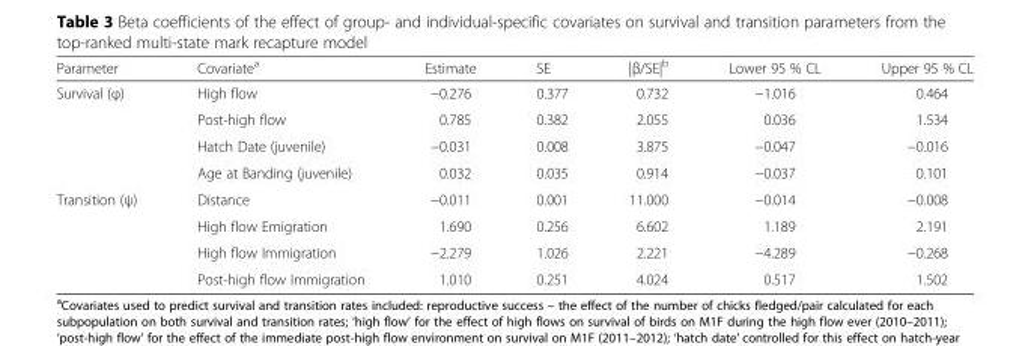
<table><thead><tr><td>Parameter</td><td>Covariate<sup>a</sup></td><td>Estimate</td><td>SE</td><td>|β/SE|<sup>b</sup></td><td>Lower 95 % CL</td><td>Upper 95 % CL</td></tr></thead><tbody><tr><td rowspan="4">Survival (φ)</td><td>High flow</td><td>−0.276</td><td>0.377</td><td>0.732</td><td>−1.016</td><td>0.464</td></tr><tr><td>Post-high flow</td><td>0.785</td><td>0.382</td><td>2.055</td><td>0.036</td><td>1.534</td></tr><tr><td>Hatch Date (juvenile)</td><td>−0.031</td><td>0.008</td><td>3.875</td><td>−0.047</td><td>−0.016</td></tr><tr><td>Age at Banding (juvenile)</td><td>0.032</td><td>0.035</td><td>0.914</td><td>−0.037</td><td>0.101</td></tr><tr><td rowspan="4">Transition (ψ)</td><td>Distance</td><td>−0.011</td><td>0.001</td><td>11.000</td><td>−0.014</td><td>−0.008</td></tr><tr><td>High flow Emigration</td><td>1.690</td><td>0.256</td><td>6.602</td><td>1.189</td><td>2.191</td></tr><tr><td>High flow Immigration</td><td>−2.279</td><td>1.026</td><td>2.221</td><td>−4.289</td><td>−0.268</td></tr><tr><td>Post-high flow Immigration</td><td>1.010</td><td>0.251</td><td>4.024</td><td>0.517</td><td>1.502</td></tr></tbody></table>